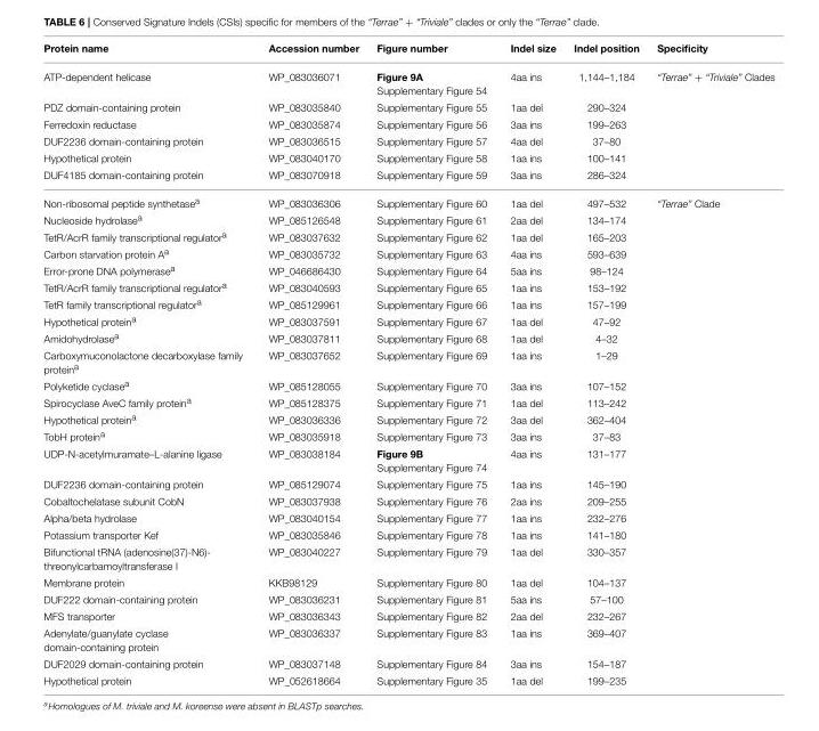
<table><thead><tr><td>Protein name</td><td>Accession number</td><td>Figure number</td><td>Indel size</td><td>Indel position</td><td>Specificity</td></tr></thead><tbody><tr><td>ATP-dependent helicase</td><td>WP_083036071</td><td>Figure 9A Supplementary Figure 54</td><td>4aa ins</td><td>1,144–1,184</td><td>“Terrae” + “Triviale” Clades</td></tr><tr><td>PDZ domain-containing protein</td><td>WP_083035840</td><td>Supplementary Figure 55</td><td>1aa del</td><td>290–324</td><td></td></tr><tr><td>Ferredoxin reductase</td><td>WP_083035874</td><td>Supplementary Figure 56</td><td>3aa ins</td><td>199–263</td><td></td></tr><tr><td>DUF2236 domain-containing protein</td><td>WP_083036515</td><td>Supplementary Figure 57</td><td>4aa del</td><td>37–80</td><td></td></tr><tr><td>Hypothetical protein</td><td>WP_083040170</td><td>Supplementary Figure 58</td><td>1aa ins</td><td>100–141</td><td></td></tr><tr><td>DUF4185 domain-containing protein</td><td>WP_083070918</td><td>Supplementary Figure 59</td><td>3aa ins</td><td>286–324</td><td></td></tr><tr><td>Non-ribosomal peptide synthetase<sup>a</sup></td><td>WP_083036306</td><td>Supplementary Figure 60</td><td>1aa del</td><td>497–532</td><td>“Terrae” Clade</td></tr><tr><td>Nucleoside hydrolase<sup>a</sup></td><td>WP_085126548</td><td>Supplementary Figure 61</td><td>2aa del</td><td>134–174</td><td></td></tr><tr><td>TetR/AcrR family transcriptional regulator<sup>a</sup></td><td>WP_083037632</td><td>Supplementary Figure 62</td><td>1aa del</td><td>165–203</td><td></td></tr><tr><td>Carbon starvation protein A<sup>a</sup></td><td>WP_083035732</td><td>Supplementary Figure 63</td><td>4aa ins</td><td>593–639</td><td></td></tr><tr><td>Error-prone DNA polymerase<sup>a</sup></td><td>WP_046686430</td><td>Supplementary Figure 64</td><td>5aa ins</td><td>98–124</td><td></td></tr><tr><td>TetR/AcrR family transcriptional regulator<sup>a</sup></td><td>WP_083040593</td><td>Supplementary Figure 65</td><td>1aa ins</td><td>153–192</td><td></td></tr><tr><td>TetR family transcriptional regulator<sup>a</sup></td><td>WP_085129961</td><td>Supplementary Figure 66</td><td>1aa ins</td><td>157–199</td><td></td></tr><tr><td>Hypothetical protein<sup>a</sup></td><td>WP_083037591</td><td>Supplementary Figure 67</td><td>1aa del</td><td>47–92</td><td></td></tr><tr><td>Amidohydrolase<sup>a</sup></td><td>WP_083037811</td><td>Supplementary Figure 68</td><td>1aa del</td><td>4–32</td><td></td></tr><tr><td>Carboxymuconolactone decarboxylase family protein<sup>a</sup></td><td>WP_083037652</td><td>Supplementary Figure 69</td><td>1aa ins</td><td>1–29</td><td></td></tr><tr><td>Polyketide cyclase<sup>a</sup></td><td>WP_085128055</td><td>Supplementary Figure 70</td><td>3aa ins</td><td>107–152</td><td></td></tr><tr><td>Spirocyclase AveC family protein<sup>a</sup></td><td>WP_085128375</td><td>Supplementary Figure 71</td><td>1aa del</td><td>113–242</td><td></td></tr><tr><td>Hypothetical protein<sup>a</sup></td><td>WP_083036336</td><td>Supplementary Figure 72</td><td>3aa del</td><td>362–404</td><td></td></tr><tr><td>TobH protein<sup>a</sup></td><td>WP_083035918</td><td>Supplementary Figure 73</td><td>3aa ins</td><td>37–83</td><td></td></tr><tr><td>UDP-N-acetylmuramate–L-alanine ligase</td><td>WP_083038184</td><td>Figure 9B Supplementary Figure 74</td><td>4aa ins</td><td>131–177</td><td></td></tr><tr><td>DUF2236 domain-containing protein</td><td>WP_085129074</td><td>Supplementary Figure 75</td><td>1aa ins</td><td>145–190</td><td></td></tr><tr><td>Cobaltochelatase subunit CobN</td><td>WP_083037938</td><td>Supplementary Figure 76</td><td>2aa ins</td><td>209–255</td><td></td></tr><tr><td>Alpha/beta hydrolase</td><td>WP_083040154</td><td>Supplementary Figure 77</td><td>1aa ins</td><td>232–276</td><td></td></tr><tr><td>Potassium transporter Kef</td><td>WP_083035846</td><td>Supplementary Figure 78</td><td>1aa ins</td><td>141–180</td><td></td></tr><tr><td>Bifunctional tRNA (adenosine(37)-N6)- threonylcarbamoyltransferase I</td><td>WP_083040227</td><td>Supplementary Figure 79</td><td>1aa del</td><td>330–357</td><td></td></tr><tr><td>Membrane protein</td><td>KKB98129</td><td>Supplementary Figure 80</td><td>1aa del</td><td>104–137</td><td></td></tr><tr><td>DUF222 domain-containing protein</td><td>WP_083036231</td><td>Supplementary Figure 81</td><td>5aa ins</td><td>57–100</td><td></td></tr><tr><td>MFS transporter</td><td>WP_083036343</td><td>Supplementary Figure 82</td><td>2aa del</td><td>232–267</td><td></td></tr><tr><td>Adenylate/guanylate cyclase domain-containing protein</td><td>WP_083036337</td><td>Supplementary Figure 83</td><td>1aa ins</td><td>369–407</td><td></td></tr><tr><td>DUF2029 domain-containing protein</td><td>WP_083037148</td><td>Supplementary Figure 84</td><td>3aa ins</td><td>154–187</td><td></td></tr><tr><td>Hypothetical protein</td><td>WP_052618664</td><td>Supplementary Figure 35</td><td>1aa del</td><td>199–235</td><td></td></tr></tbody></table>